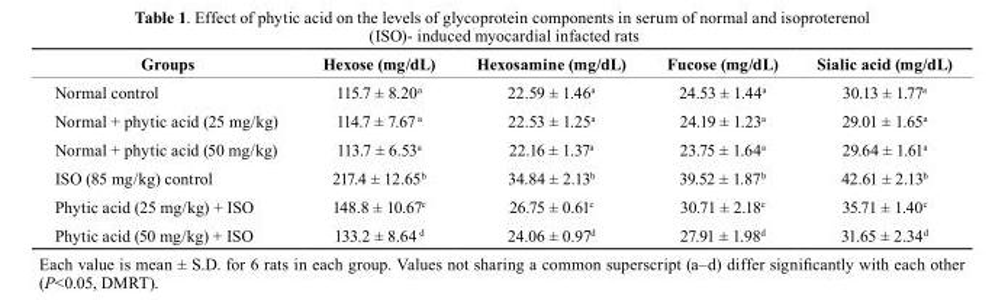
<table><thead><tr><td>Groups</td><td>Hexose (mg/dL)</td><td>Hexosamine (mg/dL)</td><td>Fucose (mg/dL)</td><td>sialic acid (mg/dL)</td></tr></thead><tbody><tr><td>Normal control</td><td>115.7 ± 8.20<sup>a</sup></td><td>22.59 ± 1.46<sup>a</sup></td><td>24.53 ± 1.44<sup>a</sup></td><td>30.13 ± 1.77<sup>a</sup></td></tr><tr><td>Normal + phytic acid (25 mg/kg)</td><td>114.7 ± 7.67 <sup>a</sup></td><td>22.53 ± 1.25<sup>a</sup></td><td>24.19 ± 1.23<sup>a</sup></td><td>29.01 ± 1.65<sup>a</sup></td></tr><tr><td>Normal + phytic acid (50 mg/kg)</td><td>113.7 ± 6.53<sup>a</sup></td><td>22.16 ± 1.37<sup>a</sup></td><td>23.75 ± 1.64<sup>a</sup></td><td>29.64 ± 1.61<sup>a</sup></td></tr><tr><td>ISO (85 mg/kg) control</td><td>217.4 ± 12.65<sup>b</sup></td><td>34.84 ± 2.13<sup>b</sup></td><td>39.52 ± 1.87<sup>b</sup></td><td>42.61 ± 2.13<sup>b</sup></td></tr><tr><td>Phytic acid (25 mg/kg) + ISO</td><td>148.8 ± 10.67<sup>c</sup></td><td>26.75 ± 0.61<sup>c</sup></td><td>30.71 ± 2.18<sup>c</sup></td><td>35.71 ± 1.40<sup>c</sup></td></tr><tr><td>Phytic acid (50 mg/kg) + ISO</td><td>133.2 ± 8.64 <sup>d</sup></td><td>24.06 ± 0.97<sup>d</sup></td><td>27.91 ± 1.98<sup>d</sup></td><td>31.65 ± 2.34<sup>d</sup></td></tr></tbody></table>